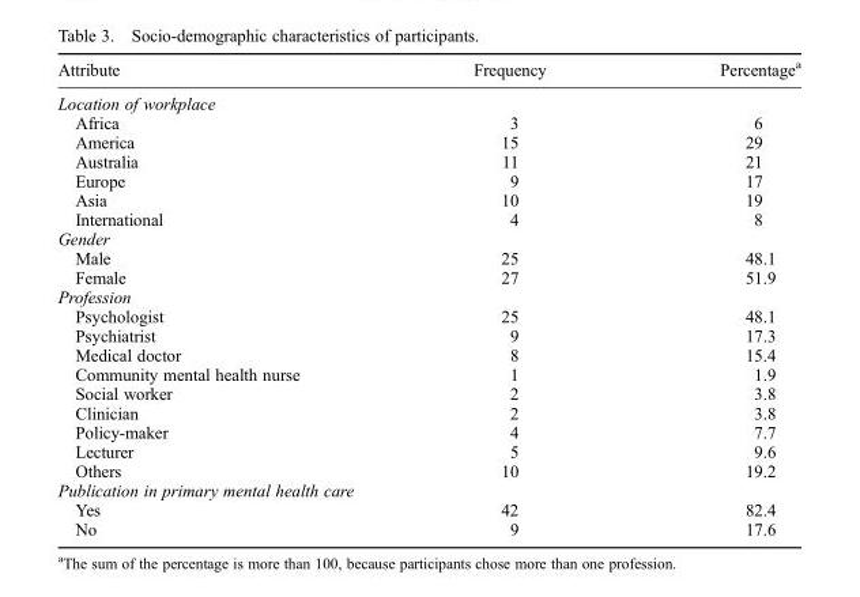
<table><thead><tr><td>Attribute</td><td>Frequency</td><td>Percentage<sup>a</sup></td></tr></thead><tbody><tr><td colspan="3">Location of workplace</td></tr><tr><td>Africa</td><td>3</td><td>6</td></tr><tr><td>America</td><td>15</td><td>29</td></tr><tr><td>Australia</td><td>11</td><td>21</td></tr><tr><td>Europe</td><td>9</td><td>17</td></tr><tr><td>Asia</td><td>10</td><td>19</td></tr><tr><td>International</td><td>4</td><td>8</td></tr><tr><td colspan="3">Gender</td></tr><tr><td>Male</td><td>25</td><td>48.1</td></tr><tr><td>Female</td><td>27</td><td>51.9</td></tr><tr><td colspan="3">Profession</td></tr><tr><td>Psychologist</td><td>25</td><td>48.1</td></tr><tr><td>Psychiatrist</td><td>9</td><td>17.3</td></tr><tr><td>Medical doctor</td><td>8</td><td>15.4</td></tr><tr><td>Community mental health nurse</td><td>1</td><td>1.9</td></tr><tr><td>Social worker</td><td>2</td><td>3.8</td></tr><tr><td>Clinician</td><td>2</td><td>3.8</td></tr><tr><td>Policy-maker</td><td>4</td><td>7.7</td></tr><tr><td>Lecturer</td><td>5</td><td>9.6</td></tr><tr><td>Others</td><td>10</td><td>19.2</td></tr><tr><td colspan="3">Publication in primary mental health care</td></tr><tr><td>Yes</td><td>42</td><td>82.4</td></tr><tr><td>No</td><td>9</td><td>17.6</td></tr></tbody></table>